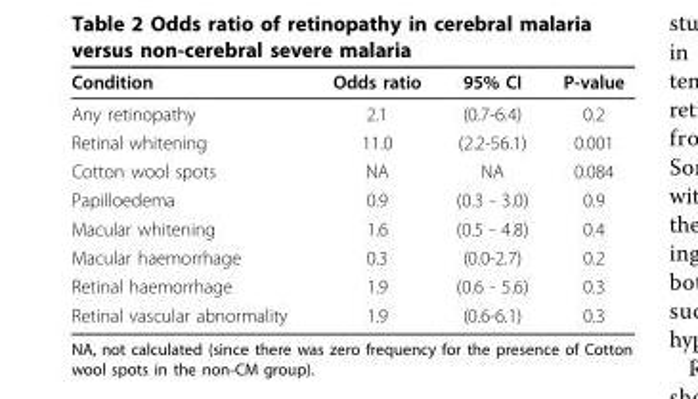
<table><thead><tr><td>Condition</td><td>Odds ratio</td><td>95% CI</td><td>P-value</td></tr></thead><tbody><tr><td>Any retinopathy</td><td>2.1</td><td>(0.7-6.4)</td><td>0.2</td></tr><tr><td>Retinal whitening</td><td>11.0</td><td>(2.2-56.1)</td><td>0.001</td></tr><tr><td>Cotton wool spots</td><td>NA</td><td>NA</td><td>0.084</td></tr><tr><td>Papilloedema</td><td>0.9</td><td>(0.3 - 3.0)</td><td>0.9</td></tr><tr><td>Macular whitening</td><td>1.6</td><td>(0.5 - 4.8)</td><td>0.4</td></tr><tr><td>Macular haemorrhage</td><td>0.3</td><td>(0.0-2.7)</td><td>0.2</td></tr><tr><td>Retinal haemorrhage</td><td>1.9</td><td>(0.6 - 5.6)</td><td>0.3</td></tr><tr><td>Retinal vascular abnormality</td><td>1.9</td><td>(0.6-6.1)</td><td>0.3</td></tr></tbody></table>